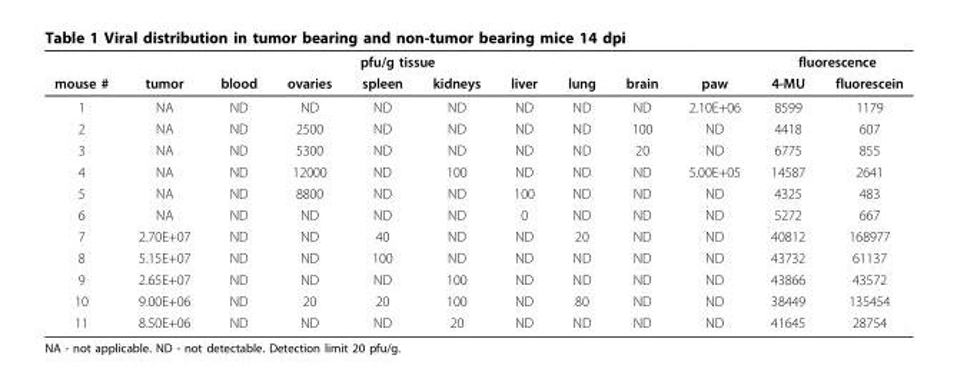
<table><thead><tr><td colspan="10">pfu/g tissue</td><td colspan="2">fluorescence</td></tr><tr><td>mouse #</td><td>tumor</td><td>blood</td><td>ovaries</td><td>spleen</td><td>kidneys</td><td>liver</td><td>lung</td><td>brain</td><td>paw</td><td>4-MU</td><td>fluorescein</td></tr></thead><tbody><tr><td>1</td><td>NA</td><td>ND</td><td>ND</td><td>ND</td><td>ND</td><td>ND</td><td>ND</td><td>ND</td><td>2.10E+06</td><td>8599</td><td>1179</td></tr><tr><td>2</td><td>NA</td><td>ND</td><td>2500</td><td>ND</td><td>ND</td><td>ND</td><td>ND</td><td>100</td><td>ND</td><td>4418</td><td>607</td></tr><tr><td>3</td><td>NA</td><td>ND</td><td>5300</td><td>ND</td><td>ND</td><td>ND</td><td>ND</td><td>20</td><td>ND</td><td>6775</td><td>855</td></tr><tr><td>4</td><td>NA</td><td>ND</td><td>12000</td><td>ND</td><td>100</td><td>ND</td><td>ND</td><td>ND</td><td>5.00E+05</td><td>14587</td><td>2641</td></tr><tr><td>5</td><td>NA</td><td>ND</td><td>8800</td><td>ND</td><td>ND</td><td>100</td><td>ND</td><td>ND</td><td>ND</td><td>4325</td><td>483</td></tr><tr><td>6</td><td>NA</td><td>ND</td><td>ND</td><td>ND</td><td>ND</td><td>0</td><td>ND</td><td>ND</td><td>ND</td><td>5272</td><td>667</td></tr><tr><td>7</td><td>2.70E+07</td><td>ND</td><td>ND</td><td>40</td><td>ND</td><td>ND</td><td>20</td><td>ND</td><td>ND</td><td>40812</td><td>168977</td></tr><tr><td>8</td><td>5.15E+07</td><td>ND</td><td>ND</td><td>100</td><td>ND</td><td>ND</td><td>ND</td><td>ND</td><td>ND</td><td>43732</td><td>61137</td></tr><tr><td>9</td><td>2.65E+07</td><td>ND</td><td>ND</td><td>ND</td><td>100</td><td>ND</td><td>ND</td><td>ND</td><td>ND</td><td>43866</td><td>43572</td></tr><tr><td>10</td><td>9.00E+06</td><td>ND</td><td>20</td><td>20</td><td>100</td><td>ND</td><td>80</td><td>ND</td><td>ND</td><td>38449</td><td>135454</td></tr><tr><td>11</td><td>8.50E+06</td><td>ND</td><td>ND</td><td>ND</td><td>20</td><td>ND</td><td>ND</td><td>ND</td><td>ND</td><td>41645</td><td>28754</td></tr></tbody></table>